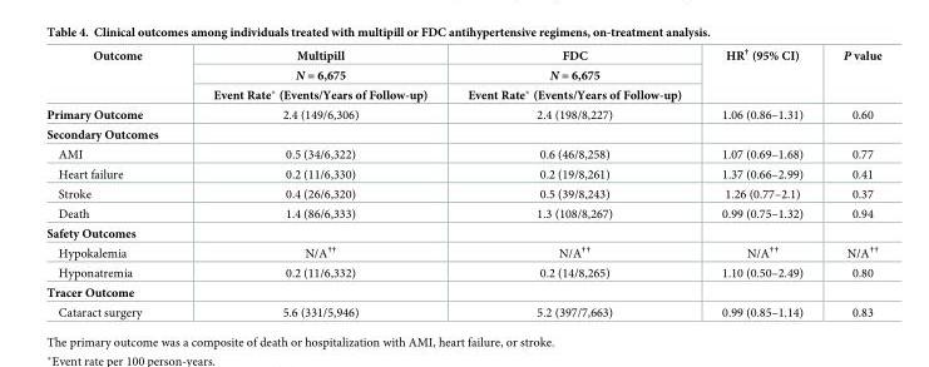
<table><thead><tr><td rowspan="3">Outcome</td><td rowspan="3">Multipill N = 6,675 Event Rate* (Events/Years of Follow-up)</td><td rowspan="3">FDC N = 6,675 Event Rate* (Events/Years of Follow-up)</td><td rowspan="3">HR<sup>†</sup> (95% CI)</td><td rowspan="3">P value</td></tr><tr></tr><tr></tr></thead><tbody><tr><td>Primary Outcome</td><td>2.4 (149/6,306)</td><td>2.4 (198/8,227)</td><td>1.06 (0.86–1.31)</td><td>0.60</td></tr><tr><td colspan="5">Secondary Outcomes</td></tr><tr><td>AMI</td><td>0.5 (34/6,322)</td><td>0.6 (46/8,258)</td><td>1.07 (0.69–1.68)</td><td>0.77</td></tr><tr><td>Heart failure</td><td>0.2 (11/6,330)</td><td>0.2 (19/8,261)</td><td>1.37 (0.66–2.99)</td><td>0.41</td></tr><tr><td>Stroke</td><td>0.4 (26/6,320)</td><td>0.5 (39/8,243)</td><td>1.26 (0.77–2.1)</td><td>0.37</td></tr><tr><td>Death</td><td>1.4 (86/6,333)</td><td>1.3 (108/8,267)</td><td>0.99 (0.75–1.32)</td><td>0.94</td></tr><tr><td colspan="5">Safety Outcomes</td></tr><tr><td>Hypokalemia</td><td>N/A<sup>††</sup></td><td>N/A<sup>††</sup></td><td>N/A<sup>††</sup></td><td>N/A<sup>††</sup></td></tr><tr><td>Hyponatremia</td><td>0.2 (11/6,332)</td><td>0.2 (14/8,265)</td><td>1.10 (0.50–2.49)</td><td>0.80</td></tr><tr><td colspan="5">Tracer Outcome</td></tr><tr><td>Cataract surgery</td><td>5.6 (331/5,946)</td><td>5.2 (397/7,663)</td><td>0.99 (0.85–1.14)</td><td>0.83</td></tr></tbody></table>